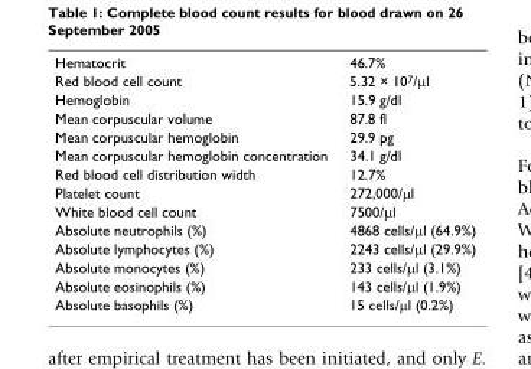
<table><tbody><tr><td>Hematocrit</td><td>46.7%</td></tr><tr><td>Red blood cell count</td><td>5.32 × 10<sup>7</sup>/µl</td></tr><tr><td>Hemoglobin</td><td>15.9 g/dl</td></tr><tr><td>Mean corpuscular volume</td><td>87.8 fl</td></tr><tr><td>Mean corpuscular hemoglobin</td><td>29.9 pg</td></tr><tr><td>Mean corpuscular hemoglobin concentration</td><td>34.1 g/dl</td></tr><tr><td>Red blood cell distribution width</td><td>12.7%</td></tr><tr><td>Platelet count</td><td>272,000/µl</td></tr><tr><td>White blood cell count</td><td>7500/µl</td></tr><tr><td>Absolute neutrophils (%)</td><td>4868 cells/µl (64.9%)</td></tr><tr><td>Absolute lymphocytes (%)</td><td>2243 cells/µl (29.9%)</td></tr><tr><td>Absolute monocytes (%)</td><td>233 cells/µl (3.1%)</td></tr><tr><td>Absolute eosinophils (%)</td><td>143 cells/µl (1.9%)</td></tr><tr><td>Absolute basophils (%)</td><td>15 cells/µl (0.2%)</td></tr></tbody></table>